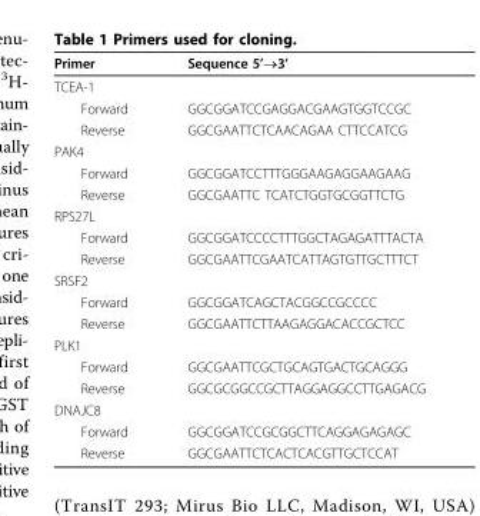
<table><thead><tr><td>Primer</td><td>Sequence 5’→3’</td></tr></thead><tbody><tr><td colspan="2">TCEA-1</td></tr><tr><td>Forward</td><td>GGCGGATCCGAGGACGAAGTGGTCCGC</td></tr><tr><td>Reverse</td><td>GGCGAATTCTCAACAGAA CTTCCATCG</td></tr><tr><td colspan="2">PAK4</td></tr><tr><td>Forward</td><td>GGCGGATCCTTTGGGAAGAGGAAGAAG</td></tr><tr><td>Reverse</td><td>GGCGAATTC TCATCTGGTGCGGTTCTG</td></tr><tr><td colspan="2">RPS27L</td></tr><tr><td>Forward</td><td>GGCGGATCCCCTTTGGCTAGAGATTTACTA</td></tr><tr><td>Reverse</td><td>GGCGAATTCGAATCATTAGTGTTGCTTTCT</td></tr><tr><td colspan="2">SRSF2</td></tr><tr><td>Forward</td><td>GGCGGATCAGCTACGGCCGCCCC</td></tr><tr><td>Reverse</td><td>GGCGAATTCTTAAGAGGACACCGCTCC</td></tr><tr><td colspan="2">PLK1</td></tr><tr><td>Forward</td><td>GGCGAATTCGCTGCAGTGACTGCAGGG</td></tr><tr><td>Reverse</td><td>GGCGCGGCCGCTTAGGAGGCCTTGAGACG</td></tr><tr><td colspan="2">DNAJC8</td></tr><tr><td>Forward</td><td>GGCGGATCCGCGGCTTCAGGAGAGAGC</td></tr><tr><td>Reverse</td><td>GGCGAATTCTCACTCACGTTGCTCCAT</td></tr></tbody></table>